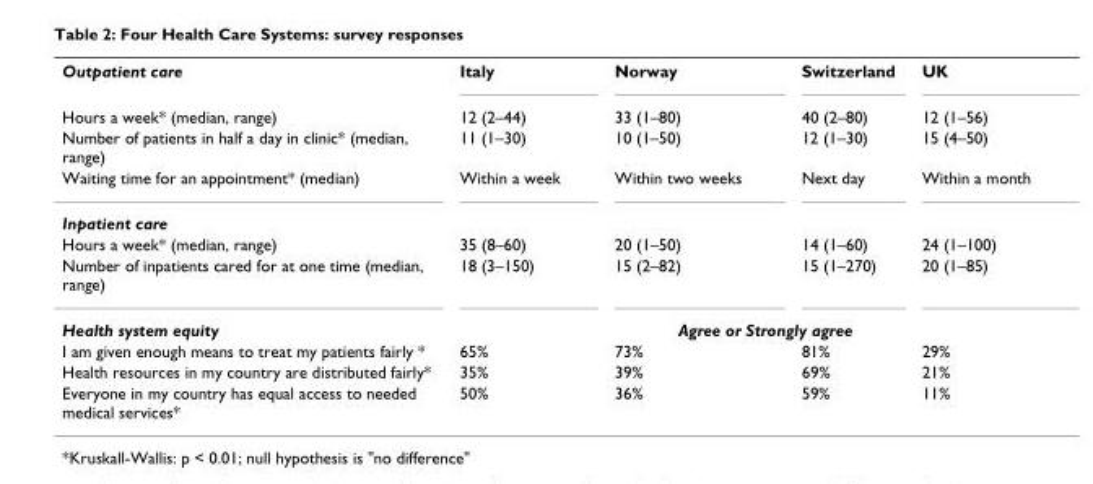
<table><tbody><tr><td>Outpatient care</td><td>Italy</td><td>Norway</td><td>Switzerland</td><td>UK</td></tr><tr><td>Hours a week* (median, range)</td><td>12 (2–44)</td><td>33 (1–80)</td><td>40 (2–80)</td><td>12 (1–56)</td></tr><tr><td>Number of patients in half a day in clinic* (median, range)</td><td>11 (1–30)</td><td>10 (1–50)</td><td>12 (1–30)</td><td>15 (4–50)</td></tr><tr><td>Waiting time for an appointment* (median)</td><td>Within a week</td><td>Within two weeks</td><td>Next day</td><td>Within a month</td></tr><tr><td colspan="5">Inpatient care</td></tr><tr><td>Hours a week* (median, range)</td><td>35 (8–60)</td><td>20 (1–50)</td><td>14 (1–60)</td><td>24 (1–100)</td></tr><tr><td>Number of inpatients cared for at one time (median, range)</td><td>18 (3–150)</td><td>15 (2–82)</td><td>15 (1–270)</td><td>20 (1–85)</td></tr><tr><td>Health system equity</td><td colspan="4">Agree or Strongly agree</td></tr><tr><td>I am given enough means to treat my patients fairly *</td><td>65%</td><td>73%</td><td>81%</td><td>29%</td></tr><tr><td>Health resources in my country are distributed fairly*</td><td>35%</td><td>39%</td><td>69%</td><td>21%</td></tr><tr><td>Everyone in my country has equal access to needed medical services*</td><td>50%</td><td>36%</td><td>59%</td><td>11%</td></tr></tbody></table>